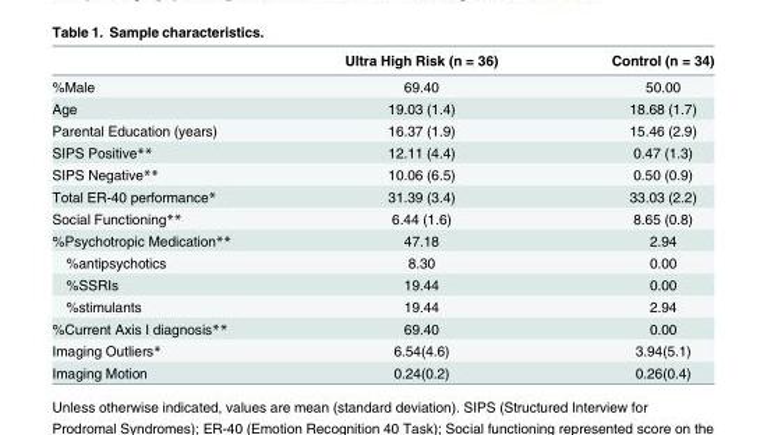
<table><thead><tr><td></td><td>Ultra High Risk (n = 36)</td><td>Control (n = 34)</td></tr></thead><tbody><tr><td>%Male</td><td>69.40</td><td>50.00</td></tr><tr><td>Age</td><td>19.03 (1.4)</td><td>18.68 (1.7)</td></tr><tr><td>Parental Education (years)</td><td>16.37 (1.9)</td><td>15.46 (2.9)</td></tr><tr><td>SIPS Positive**</td><td>12.11 (4.4)</td><td>0.47 (1.3)</td></tr><tr><td>SIPS Negative**</td><td>10.06 (6.5)</td><td>0.50 (0.9)</td></tr><tr><td>Total ER-40 performance*</td><td>31.39 (3.4)</td><td>33.03 (2.2)</td></tr><tr><td>Social Functioning**</td><td>6.44 (1.6)</td><td>8.65 (0.8)</td></tr><tr><td>%Psychotropic Medication**</td><td>47.18</td><td>2.94</td></tr><tr><td>%antipsychotics</td><td>8.30</td><td>0.00</td></tr><tr><td>%SSRIs</td><td>19.44</td><td>0.00</td></tr><tr><td>%stimulants</td><td>19.44</td><td>2.94</td></tr><tr><td>%Current Axis I diagnosis**</td><td>69.40</td><td>0.00</td></tr><tr><td>Imaging Outliers*</td><td>6.54(4.6)</td><td>3.94(5.1)</td></tr><tr><td>Imaging Motion</td><td>0.24(0.2)</td><td>0.26(0.4)</td></tr></tbody></table>